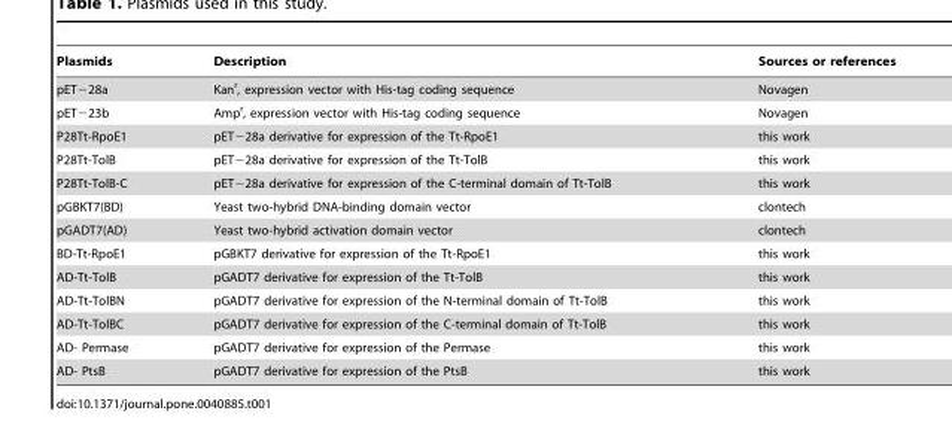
<table><thead><tr><td>Plasmids</td><td>Description</td><td>Sources or references</td></tr></thead><tbody><tr><td>pET−28a</td><td>Kan<sup>r</sup>, expression vector with His-tag coding sequence</td><td>Novagen</td></tr><tr><td>pET−23b</td><td>Amp<sup>r</sup>, expression vector with His-tag coding sequence</td><td>Novagen</td></tr><tr><td>P28Tt-RpoE1</td><td>pET−28a derivative for expression of the Tt-RpoE1</td><td>this work</td></tr><tr><td>P28Tt-TolB</td><td>pET−28a derivative for expression of the Tt-TolB</td><td>this work</td></tr><tr><td>P28Tt-TolB-C</td><td>pET−28a derivative for expression of the C-terminal domain of Tt-TolB</td><td>this work</td></tr><tr><td>pGBKT7(BD)</td><td>Yeast two-hybrid DNA-binding domain vector</td><td>clontech</td></tr><tr><td>pGADT7(AD)</td><td>Yeast two-hybrid activation domain vector</td><td>clontech</td></tr><tr><td>BD-Tt-RpoE1</td><td>pGBKT7 derivative for expression of the Tt-RpoE1</td><td>this work</td></tr><tr><td>AD-Tt-TolB</td><td>pGADT7 derivative for expression of the Tt-TolB</td><td>this work</td></tr><tr><td>AD-Tt-TolBN</td><td>pGADT7 derivative for expression of the N-terminal domain of Tt-TolB</td><td>this work</td></tr><tr><td>AD-Tt-TolBC</td><td>pGADT7 derivative for expression of the C-terminal domain of Tt-TolB</td><td>this work</td></tr><tr><td>AD- Permase</td><td>pGADT7 derivative for expression of the Permase</td><td>this work</td></tr><tr><td>AD- PtsB</td><td>pGADT7 derivative for expression of the PtsB</td><td>this work</td></tr></tbody></table>